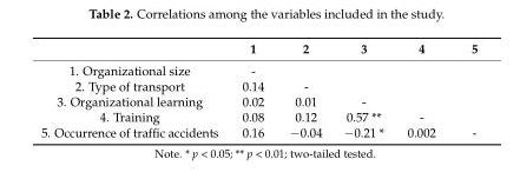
<table><thead><tr><td></td><td>1</td><td>2</td><td>3</td><td>4</td><td>5</td></tr></thead><tbody><tr><td>1. Organizational size</td><td>-</td><td></td><td></td><td></td><td></td></tr><tr><td>2. Type of transport</td><td>0.14</td><td>-</td><td></td><td></td><td></td></tr><tr><td>3. Organizational learning</td><td>0.02</td><td>0.01</td><td>-</td><td></td><td></td></tr><tr><td>4. Training</td><td>0.08</td><td>0.12</td><td>0.57 **</td><td>-</td><td></td></tr><tr><td>5. Occurrence of traffic accidents</td><td>0.16</td><td>−0.04</td><td>−0.21 *</td><td>0.002</td><td>-</td></tr></tbody></table>